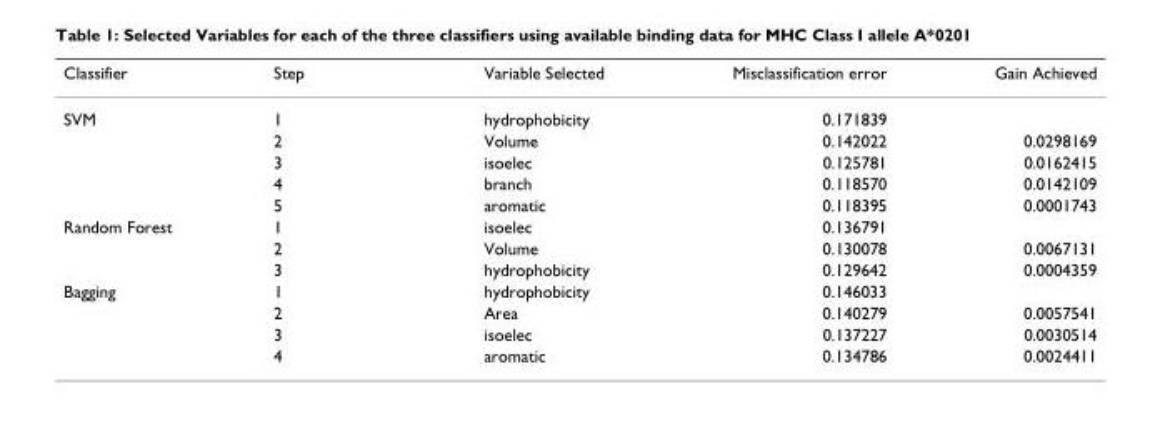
<table><thead><tr><td>Classifier</td><td>Step</td><td>Variable Selected</td><td>Misclassification error</td><td>Gain Achieved</td></tr></thead><tbody><tr><td rowspan="5">SVM</td><td>1</td><td>hydrophobicity</td><td>0.171839</td><td></td></tr><tr><td>2</td><td>Volume</td><td>0.142022</td><td>0.0298169</td></tr><tr><td>3</td><td>isoelec</td><td>0.125781</td><td>0.0162415</td></tr><tr><td>4</td><td>branch</td><td>0.118570</td><td>0.0142109</td></tr><tr><td>5</td><td>aromatic</td><td>0.118395</td><td>0.0001743</td></tr><tr><td rowspan="3">Random Forest</td><td>1</td><td>isoelec</td><td>0.136791</td><td></td></tr><tr><td>2</td><td>Volume</td><td>0.130078</td><td>0.0067131</td></tr><tr><td>3</td><td>hydrophobicity</td><td>0.129642</td><td>0.0004359</td></tr><tr><td rowspan="4">Bagging</td><td>1</td><td>hydrophobicity</td><td>0.146033</td><td></td></tr><tr><td>2</td><td>Area</td><td>0.140279</td><td>0.0057541</td></tr><tr><td>3</td><td>isoelec</td><td>0.137227</td><td>0.0030514</td></tr><tr><td>4</td><td>aromatic</td><td>0.134786</td><td>0.0024411</td></tr></tbody></table>